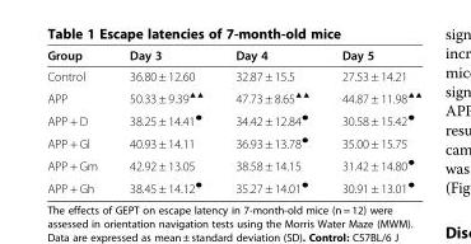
<table><thead><tr><td>Group</td><td>Day 3</td><td>Day 4</td><td>Day 5</td></tr></thead><tbody><tr><td>Control</td><td>36.80 ± 12.60</td><td>32.87 ± 15.5</td><td>27.53 ± 14.21</td></tr><tr><td>APP</td><td>50.33 ± 9.39<sup>▲▲</sup></td><td>47.73 ± 8.65<sup>▲▲</sup></td><td>44.87 ± 11.98<sup>▲▲</sup></td></tr><tr><td>APP + D</td><td>38.25 ± 14.41<sup>●</sup></td><td>34.42 ± 12.84<sup>●</sup></td><td>30.58 ± 15.42<sup>●</sup></td></tr><tr><td>APP + Gl</td><td>40.93 ± 14.11</td><td>36.93 ± 13.78<sup>●</sup></td><td>35.00 ± 15.75</td></tr><tr><td>APP + Gm</td><td>42.92 ± 13.05</td><td>38.58 ± 14.15</td><td>31.42 ± 14.80<sup>●</sup></td></tr><tr><td>APP + Gh</td><td>38.45 ± 14.12<sup>●</sup></td><td>35.27 ± 14.01<sup>●</sup></td><td>30.91 ± 13.01<sup>●</sup></td></tr></tbody></table>